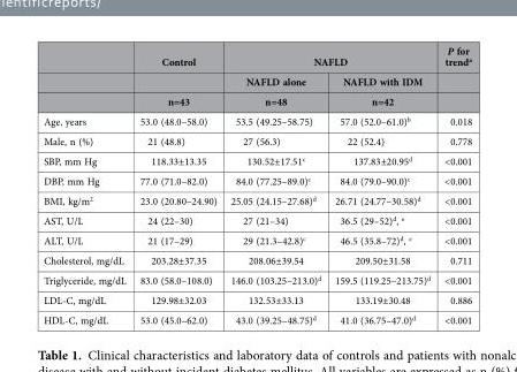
<table><thead><tr><td rowspan="3"></td><td rowspan="3">Control n=43</td><td colspan="2">NAFLD</td><td rowspan="3">P for trend<sup>a</sup></td></tr><tr><td rowspan="2">NAFLD alone n=48</td><td rowspan="2">NAFLD with IDM n=42</td></tr><tr></tr></thead><tbody><tr><td>Age, years</td><td>53.0 (48.0–58.0)</td><td>53.5 (49.25–58.75)</td><td>57.0 (52.0–61.0)<sup>b</sup></td><td>0.018</td></tr><tr><td>Male, n (%)</td><td>21 (48.8)</td><td>27 (56.3)</td><td>22 (52.4)</td><td>0.778</td></tr><tr><td>SBP, mm Hg</td><td>118.33±13.35</td><td>130.52±17.51<sup>c</sup></td><td>137.83±20.95<sup>d</sup></td><td>&lt;0.001</td></tr><tr><td>DBP, mm Hg</td><td>77.0 (71.0–82.0)</td><td>84.0 (77.25–89.0)<sup>c</sup></td><td>84.0 (79.0–90.0)<sup>c</sup></td><td>&lt;0.001</td></tr><tr><td>BMI, kg/m<sup>2</sup></td><td>23.0 (20.80–24.90)</td><td>25.05 (24.15–27.68)<sup>d</sup></td><td>26.71 (24.77–30.58)<sup>d</sup></td><td>&lt;0.001</td></tr><tr><td>AST, U/L</td><td>24 (22–30)</td><td>27 (21–34)</td><td>36.5 (29–52)<sup>d</sup>, <sup>e</sup></td><td>&lt;0.001</td></tr><tr><td>ALT, U/L</td><td>21 (17–29)</td><td>29 (21.3–42.8)<sup>c</sup></td><td>46.5 (35.8–72)<sup>d</sup>, <sup>e</sup></td><td>&lt;0.001</td></tr><tr><td>Cholesterol, mg/dL</td><td>203.28±37.35</td><td>208.06±39.54</td><td>209.50±31.58</td><td>0.711</td></tr><tr><td>Triglyceride, mg/dL</td><td>83.0 (58.0–108.0)</td><td>146.0 (103.25–213.0)<sup>d</sup></td><td>159.5 (119.25–213.75)<sup>d</sup></td><td>&lt;0.001</td></tr><tr><td>LDL-C, mg/dL</td><td>129.98±32.03</td><td>132.53±33.13</td><td>133.19±30.48</td><td>0.886</td></tr><tr><td>HDL-C, mg/dL</td><td>53.0 (45.0–62.0)</td><td>43.0 (39.25–48.75)<sup>d</sup></td><td>41.0 (36.75–47.0)<sup>d</sup></td><td>&lt;0.001</td></tr></tbody></table>